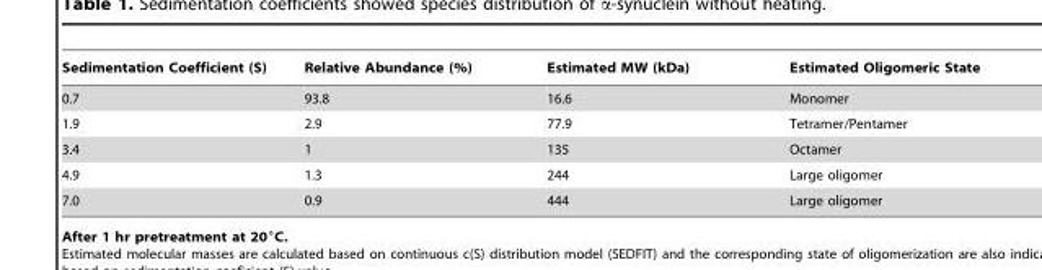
<table><thead><tr><td>Sedimentation Coefficient (S)</td><td>Relative Abundance (%)</td><td>Estimated MW (kDa)</td><td>Estimated Oligomeric State</td></tr></thead><tbody><tr><td>0.7</td><td>93.8</td><td>16.6</td><td>Monomer</td></tr><tr><td>1.9</td><td>2.9</td><td>77.9</td><td>Tetramer/Pentamer</td></tr><tr><td>3.4</td><td>1</td><td>135</td><td>Octamer</td></tr><tr><td>4.9</td><td>1.3</td><td>244</td><td>Large oligomer</td></tr><tr><td>7.0</td><td>0.9</td><td>444</td><td>Large oligomer</td></tr></tbody></table>